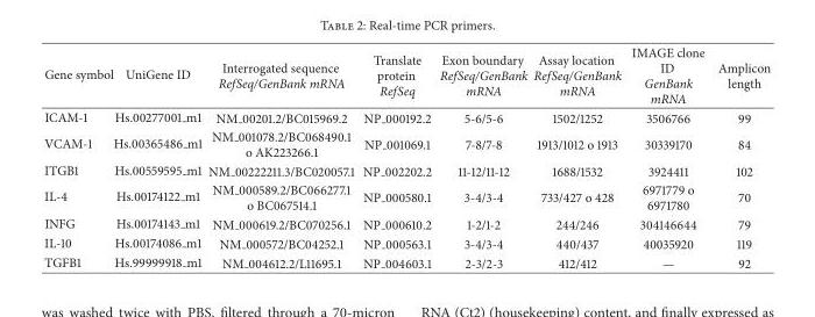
<table><thead><tr><td>Gene symbol</td><td>UniGene ID</td><td>Interrogated sequence RefSeq/GenBank mRNA</td><td>Translate protein RefSeq</td><td>Exon boundary RefSeq/GenBank mRNA</td><td>Assay location RefSeq/GenBank mRNA</td><td>IMAGE clone ID GenBank mRNA</td><td>Amplicon length</td></tr></thead><tbody><tr><td>ICAM-1</td><td>Hs.00277001 m1</td><td>NM 00201.2/BC015969.2</td><td>NP 000192.2</td><td>5-6/5-6</td><td>1502/1252</td><td>3506766</td><td>99</td></tr><tr><td>VCAM-1</td><td>Hs.00365486 m1</td><td>NM 001078.2/BC068490.1 o AK223266.1</td><td>NP 001069.1</td><td>7-8/7-8</td><td>1913/1012 o 1913</td><td>30339170</td><td>84</td></tr><tr><td>ITGB1</td><td>Hs.00559595 m1</td><td>NM 00222211.3/BC020057.1</td><td>NP 002202.2</td><td>11-12/11-12</td><td>1688/1532</td><td>3924411</td><td>102</td></tr><tr><td>IL-4</td><td>Hs.00174122 m1</td><td>NM 000589.2/BC066277.1 o BC067514.1</td><td>NP 000580.1</td><td>3-4/3-4</td><td>733/427 o 428</td><td>6971779 o 6971780</td><td>70</td></tr><tr><td>INFG</td><td>Hs.00174143 m1</td><td>NM 000619.2/BC070256.1</td><td>NP 000610.2</td><td>1-2/1-2</td><td>244/246</td><td>304146644</td><td>79</td></tr><tr><td>IL-10</td><td>Hs.00174086 m1</td><td>NM 000572/BC04252.1</td><td>NP 000563.1</td><td>3-4/3-4</td><td>440/437</td><td>40035920</td><td>119</td></tr><tr><td>TGFB1</td><td>Hs.99999918 m1</td><td>NM 004612.2/L11695.1</td><td>NP 004603.1</td><td>2-3/2-3</td><td>412/412</td><td>—</td><td>92</td></tr></tbody></table>